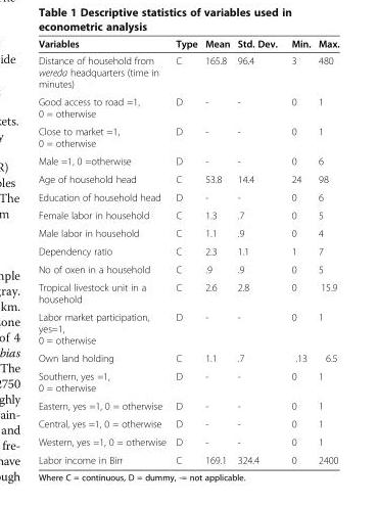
<table><thead><tr><td>Variables</td><td>Type</td><td>Mean</td><td>Std. Dev.</td><td>Min.</td><td>Max.</td></tr></thead><tbody><tr><td>Distance of household from wereda headquarters (time in minutes)</td><td>C</td><td>165.8</td><td>96.4</td><td>3</td><td>480</td></tr><tr><td>Good access to road =1, 0 = otherwise</td><td>D</td><td>-</td><td>-</td><td>0</td><td>1</td></tr><tr><td>Close to market =1, 0 = otherwise</td><td>D</td><td>-</td><td>-</td><td>0</td><td>1</td></tr><tr><td>Male =1, 0 =otherwise</td><td>D</td><td>-</td><td>-</td><td>0</td><td>6</td></tr><tr><td>Age of household head</td><td>C</td><td>53.8</td><td>14.4</td><td>24</td><td>98</td></tr><tr><td>Education of household head</td><td>D</td><td>-</td><td>-</td><td>0</td><td>6</td></tr><tr><td>Female labor in household</td><td>C</td><td>1.3</td><td>.7</td><td>0</td><td>5</td></tr><tr><td>Male labor in household</td><td>C</td><td>1.1</td><td>.9</td><td>0</td><td>4</td></tr><tr><td>Dependency ratio</td><td>C</td><td>2.3</td><td>1.1</td><td>1</td><td>7</td></tr><tr><td>No of oxen in a household</td><td>C</td><td>.9</td><td>.9</td><td>0</td><td>5</td></tr><tr><td>Tropical livestock unit in a household</td><td>C</td><td>2.6</td><td>2.8</td><td>0</td><td>15.9</td></tr><tr><td>Labor market participation, yes=1, 0 = otherwise</td><td>D</td><td>-</td><td>-</td><td>0</td><td>1</td></tr><tr><td>Own land holding</td><td>C</td><td>1.1</td><td>.7</td><td>.13</td><td>6.5</td></tr><tr><td>Southern, yes =1, 0 = otherwise</td><td>D</td><td>-</td><td>-</td><td>0</td><td>1</td></tr><tr><td>Eastern, yes =1, 0 = otherwise</td><td>D</td><td>-</td><td>-</td><td>0</td><td>1</td></tr><tr><td>Central, yes =1, 0 = otherwise</td><td>D</td><td>-</td><td>-</td><td>0</td><td>1</td></tr><tr><td>Western, yes =1, 0 = otherwise</td><td>D</td><td>-</td><td>-</td><td>0</td><td>1</td></tr><tr><td>Labor income in Birr</td><td>C</td><td>169.1</td><td>324.4</td><td>0</td><td>2400</td></tr></tbody></table>